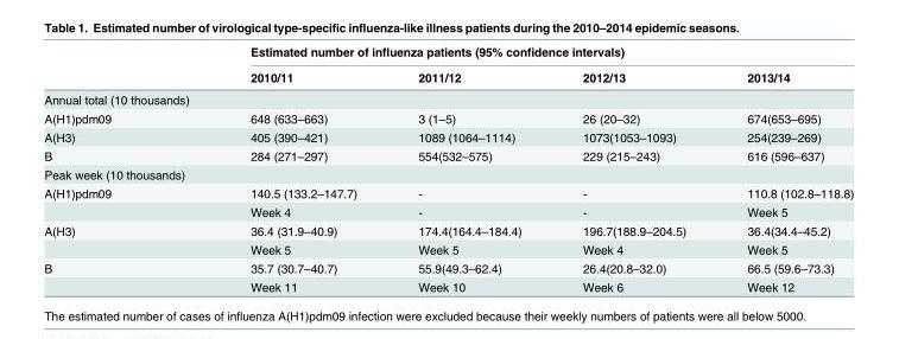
<table><thead><tr><td rowspan="2"></td><td colspan="4">Estimated number of influenza patients (95% confidence intervals)</td></tr><tr><td>2010/11</td><td>2011/12</td><td>2012/13</td><td>2013/14</td></tr></thead><tbody><tr><td colspan="5">Annual total (10 thousands)</td></tr><tr><td>A(H1)pdm09</td><td>648 (633–663)</td><td>3 (1–5)</td><td>26 (20–32)</td><td>674(653–695)</td></tr><tr><td>A(H3)</td><td>405 (390–421)</td><td>1089 (1064–1114)</td><td>1073(1053–1093)</td><td>254(239–269)</td></tr><tr><td>B</td><td>284 (271–297)</td><td>554(532–575)</td><td>229 (215–243)</td><td>616 (596–637)</td></tr><tr><td colspan="5">Peak week (10 thousands)</td></tr><tr><td rowspan="2">A(H1)pdm09</td><td>140.5 (133.2–147.7)</td><td>-</td><td>-</td><td>110.8 (102.8–118.8)</td></tr><tr><td>Week 4</td><td>-</td><td>-</td><td>Week 5</td></tr><tr><td rowspan="2">A(H3)</td><td>36.4 (31.9–40.9)</td><td>174.4(164.4–184.4)</td><td>196.7(188.9–204.5)</td><td>36.4(34.4–45.2)</td></tr><tr><td>Week 5</td><td>Week 5</td><td>Week 4</td><td>Week 5</td></tr><tr><td rowspan="2">B</td><td>35.7 (30.7–40.7)</td><td>55.9(49.3–62.4)</td><td>26.4(20.8–32.0)</td><td>66.5 (59.6–73.3)</td></tr><tr><td>Week 11</td><td>Week 10</td><td>Week 6</td><td>Week 12</td></tr></tbody></table>